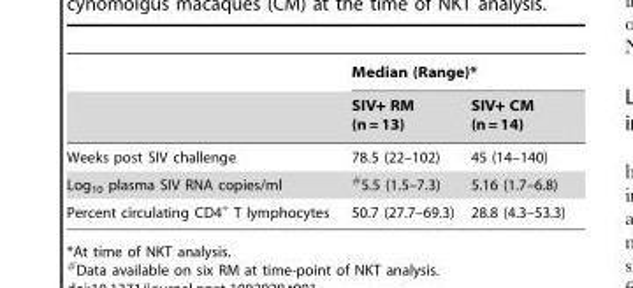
<table><thead><tr><td rowspan="2"></td><td colspan="2">Median (Range)*</td></tr><tr><td>SIV+ RM (n = 13)</td><td>SIV+ CM (n = 14)</td></tr></thead><tbody><tr><td>Weeks post SIV challenge</td><td>78.5 (22–102)</td><td>45 (14–140)</td></tr><tr><td>Log<sub>10</sub> plasma SIV RNA copies/ml</td><td>#5.5 (1.5–7.3)</td><td>5.16 (1.7–6.8)</td></tr><tr><td>Percent circulating CD4<sup>+</sup> T lymphocytes</td><td>50.7 (27.7–69.3)</td><td>28.8 (4.3–53.3)</td></tr></tbody></table>